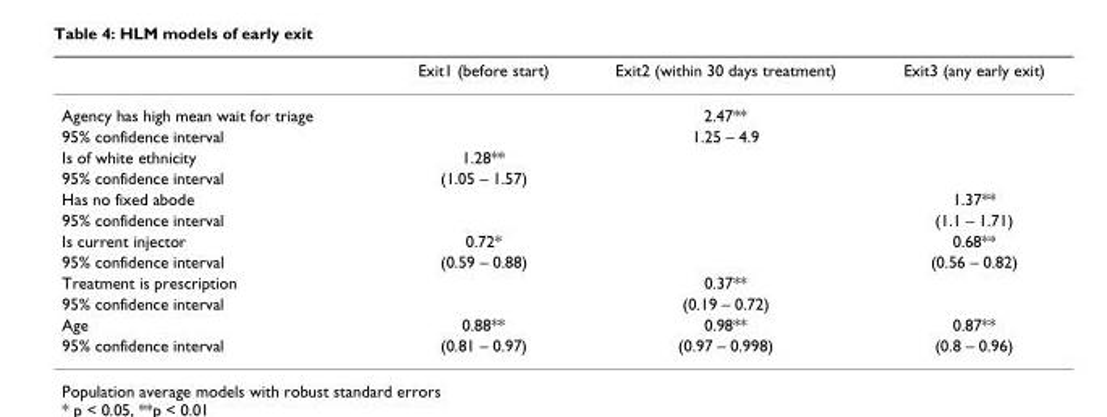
<table><thead><tr><td></td><td>Exit1 (before start)</td><td>Exit2 (within 30 days treatment)</td><td>Exit3 (any early exit)</td></tr></thead><tbody><tr><td>Agency has high mean wait for triage</td><td></td><td>2.47**</td><td></td></tr><tr><td>95% confidence interval</td><td></td><td>1.25 – 4.9</td><td></td></tr><tr><td>Is of white ethnicity</td><td>1.28**</td><td></td><td></td></tr><tr><td>95% confidence interval</td><td>(1.05 – 1.57)</td><td></td><td></td></tr><tr><td>Has no fixed abode</td><td></td><td></td><td>1.37**</td></tr><tr><td>95% confidence interval</td><td></td><td></td><td>(1.1 – 1.71)</td></tr><tr><td>Is current injector</td><td>0.72*</td><td></td><td>0.68**</td></tr><tr><td>95% confidence interval</td><td>(0.59 – 0.88)</td><td></td><td>(0.56 – 0.82)</td></tr><tr><td>Treatment is prescription</td><td></td><td>0.37**</td><td></td></tr><tr><td>95% confidence interval</td><td></td><td>(0.19 – 0.72)</td><td></td></tr><tr><td>Age</td><td>0.88**</td><td>0.98**</td><td>0.87**</td></tr><tr><td>95% confidence interval</td><td>(0.81 – 0.97)</td><td>(0.97 – 0.998)</td><td>(0.8 – 0.96)</td></tr></tbody></table>